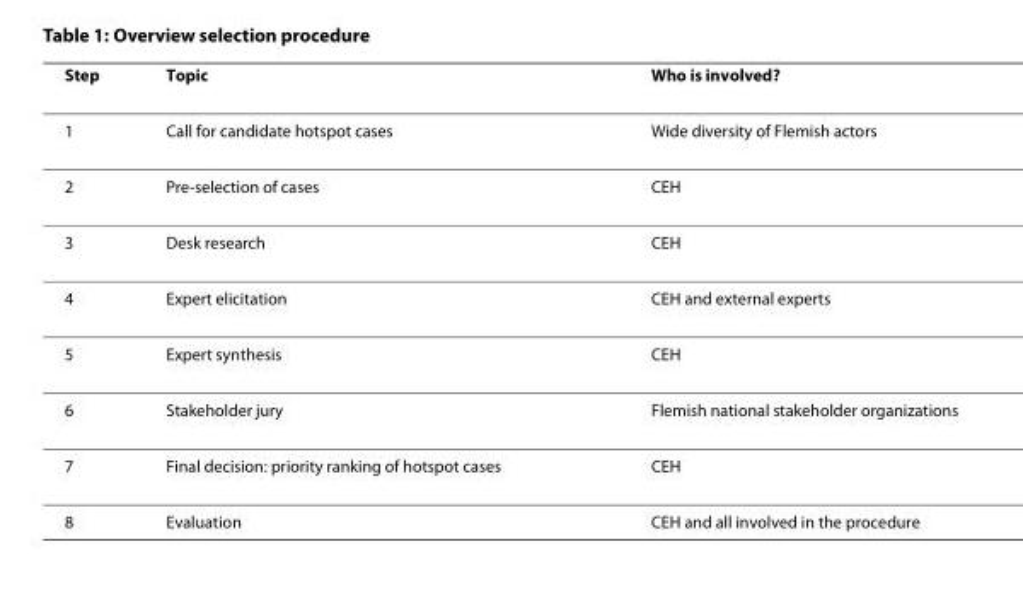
<table><thead><tr><td>Step</td><td>Topic</td><td>Who is involved?</td></tr></thead><tbody><tr><td>1</td><td>Call for candidate hotspot cases</td><td>Wide diversity of Flemish actors</td></tr><tr><td>2</td><td>Pre-selection of cases</td><td>CEH</td></tr><tr><td>3</td><td>Desk research</td><td>CEH</td></tr><tr><td>4</td><td>Expert elicitation</td><td>CEH and external experts</td></tr><tr><td>5</td><td>Expert synthesis</td><td>CEH</td></tr><tr><td>6</td><td>Stakeholder jury</td><td>Flemish national stakeholder organizations</td></tr><tr><td>7</td><td>Final decision: priority ranking of hotspot cases</td><td>CEH</td></tr><tr><td>8</td><td>Evaluation</td><td>CEH and all involved in the procedure</td></tr></tbody></table>